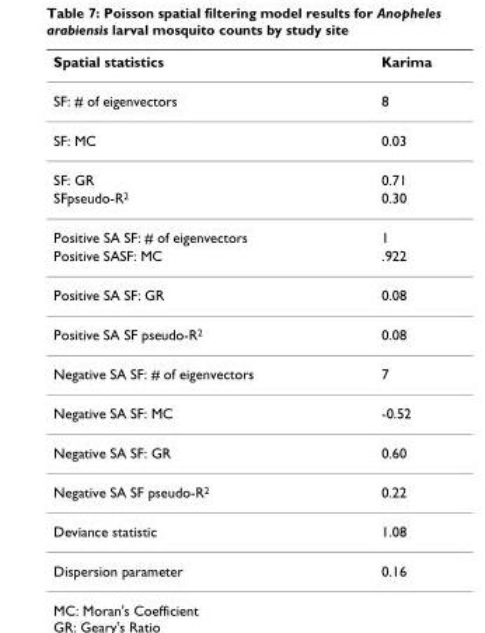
<table><thead><tr><td>Spatial statistics</td><td>Karima</td></tr></thead><tbody><tr><td>SF: # of eigenvectors</td><td>8</td></tr><tr><td>SF: MC</td><td>0.03</td></tr><tr><td>SF: GR</td><td>0.71</td></tr><tr><td>SFpseudo-R<sup>2</sup></td><td>0.30</td></tr><tr><td>Positive SA SF: # of eigenvectors</td><td>1</td></tr><tr><td>Positive SASF: MC</td><td>.922</td></tr><tr><td>Positive SA SF: GR</td><td>0.08</td></tr><tr><td>Positive SA SF pseudo-R<sup>2</sup></td><td>0.08</td></tr><tr><td>Negative SA SF: # of eigenvectors</td><td>7</td></tr><tr><td>Negative SA SF: MC</td><td>-0.52</td></tr><tr><td>Negative SA SF: GR</td><td>0.60</td></tr><tr><td>Negative SA SF pseudo-R<sup>2</sup></td><td>0.22</td></tr><tr><td>Deviance statistic</td><td>1.08</td></tr><tr><td>Dispersion parameter</td><td>0.16</td></tr></tbody></table>